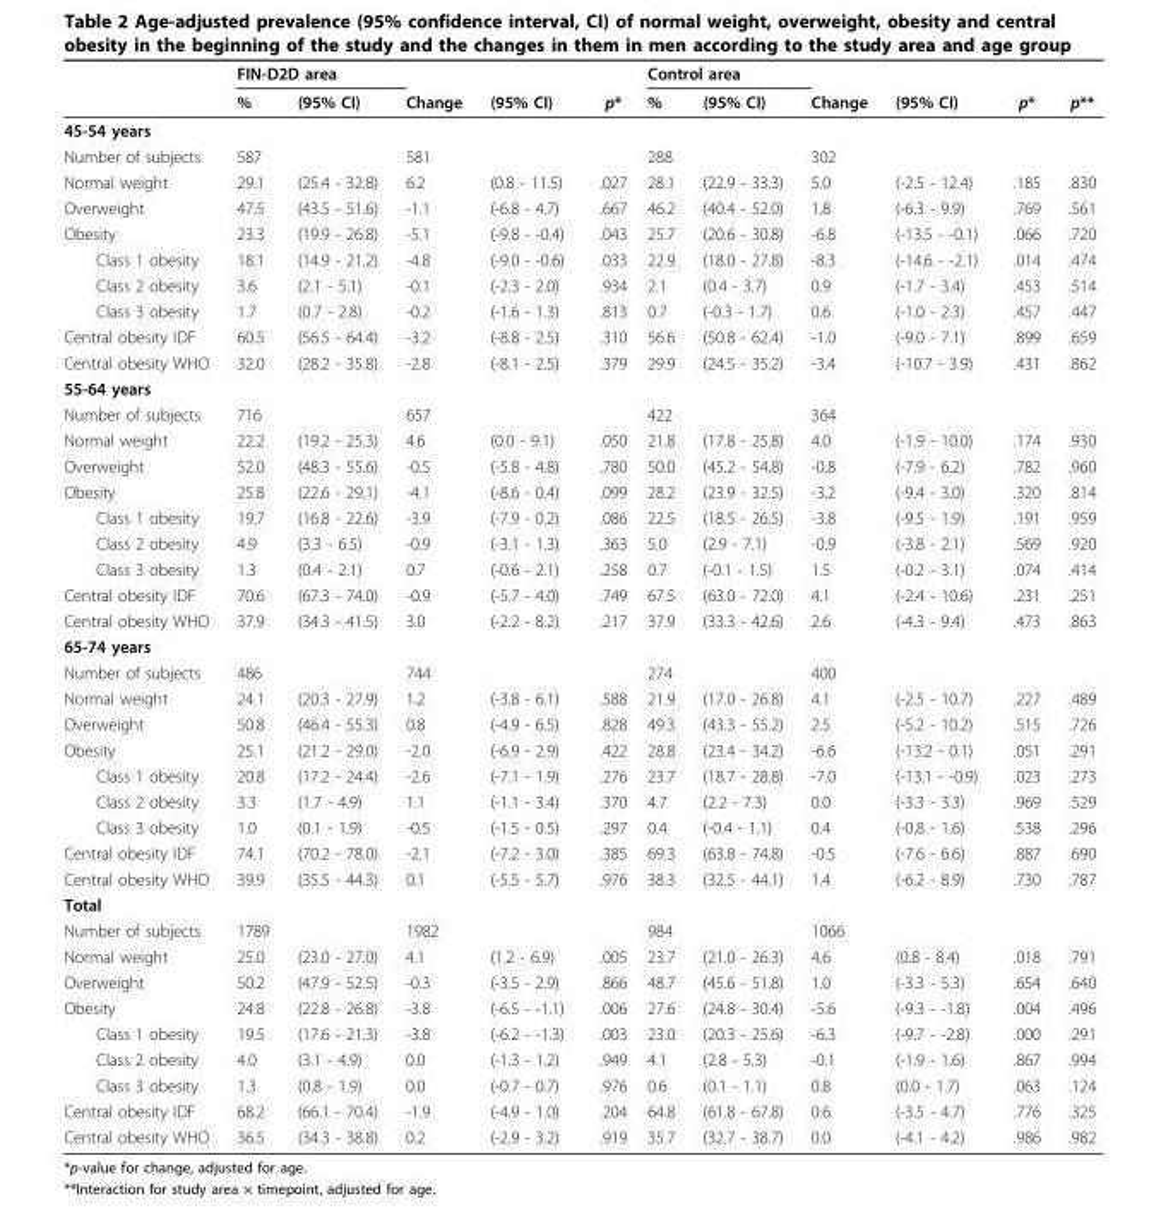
<table><thead><tr><td rowspan="2"></td><td colspan="2">FIN-D2D area</td><td rowspan="2">Change</td><td rowspan="2">(95% CI)</td><td rowspan="2">p*</td><td colspan="2">Control area</td><td rowspan="2">Change</td><td rowspan="2">(95% CI)</td><td rowspan="2">p*</td><td rowspan="2">p**</td></tr><tr><td>%</td><td>(95% CI)</td><td>%</td><td>(95% CI)</td></tr></thead><tbody><tr><td colspan="12">45-54 years</td></tr><tr><td>Number of subjects</td><td>587</td><td></td><td>581</td><td></td><td></td><td>288</td><td></td><td>302</td><td></td><td></td><td></td></tr><tr><td>Normal weight</td><td>29.1</td><td>(25.4 - 32.8)</td><td>6.2</td><td>(0.8 - 11.5)</td><td>.027</td><td>28.1</td><td>(22.9 - 33.3)</td><td>5.0</td><td>(-2.5 - 12.4)</td><td>.185</td><td>.830</td></tr><tr><td>Overweight</td><td>47.5</td><td>(43.5 - 51.6)</td><td>-1.1</td><td>(-6.8 - 4.7)</td><td>.667</td><td>46.2</td><td>(40.4 - 52.0)</td><td>1.8</td><td>(-6.3 - 9.9)</td><td>.769</td><td>.561</td></tr><tr><td>Obesity</td><td>23.3</td><td>(19.9 - 26.8)</td><td>-5.1</td><td>(-9.8 - -0.4)</td><td>.043</td><td>25.7</td><td>(20.6 - 30.8)</td><td>-6.8</td><td>(-13.5 - -0.1)</td><td>.066</td><td>.720</td></tr><tr><td>Class 1 obesity</td><td>18.1</td><td>(14.9 - 21.2)</td><td>-4.8</td><td>(-9.0 - -0.6)</td><td>.033</td><td>22.9</td><td>(18.0 - 27.8)</td><td>-8.3</td><td>(-14.6 - -2.1)</td><td>.014</td><td>.474</td></tr><tr><td>Class 2 obesity</td><td>3.6</td><td>(2.1 - 5.1)</td><td>-0.1</td><td>(-2.3 - 2.0)</td><td>.934</td><td>2.1</td><td>(0.4 - 3.7)</td><td>0.9</td><td>(-1.7 - 3.4)</td><td>.453</td><td>.514</td></tr><tr><td>Class 3 obesity</td><td>1.7</td><td>(0.7 - 2.8)</td><td>-0.2</td><td>(-1.6 - 1.3)</td><td>.813</td><td>0.7</td><td>(-0.3 - 1.7)</td><td>0.6</td><td>(-1.0 - 2.3)</td><td>.457</td><td>.447</td></tr><tr><td>Central obesity IDF</td><td>60.5</td><td>(56.5 - 64.4)</td><td>-3.2</td><td>(-8.8 - 2.5)</td><td>.310</td><td>56.6</td><td>(50.8 - 62.4)</td><td>-1.0</td><td>(-9.0 - 7.1)</td><td>.899</td><td>.659</td></tr><tr><td>Central obesity WHO</td><td>32.0</td><td>(28.2 - 35.8)</td><td>-2.8</td><td>(-8.1 - 2.5)</td><td>.379</td><td>29.9</td><td>(24.5 - 35.2)</td><td>-3.4</td><td>(-10.7 - 3.9)</td><td>.431</td><td>.862</td></tr><tr><td colspan="12">55-64 years</td></tr><tr><td>Number of subjects</td><td>716</td><td></td><td>657</td><td></td><td></td><td>422</td><td></td><td>364</td><td></td><td></td><td></td></tr><tr><td>Normal weight</td><td>22.2</td><td>(19.2 - 25.3)</td><td>4.6</td><td>(0.0 - 9.1)</td><td>.050</td><td>21.8</td><td>(17.8 - 25.8)</td><td>4.0</td><td>(-1.9 - 10.0)</td><td>.174</td><td>.930</td></tr><tr><td>Overweight</td><td>52.0</td><td>(48.3 - 55.6)</td><td>-0.5</td><td>(-5.8 - 4.8)</td><td>.780</td><td>50.0</td><td>(45.2 - 54.8)</td><td>-0.8</td><td>(-7.9 - 6.2)</td><td>.782</td><td>.960</td></tr><tr><td>Obesity</td><td>25.8</td><td>(22.6 - 29.1)</td><td>-4.1</td><td>(-8.6 - 0.4)</td><td>.099</td><td>28.2</td><td>(23.9 - 32.5)</td><td>-3.2</td><td>(-9.4 - 3.0)</td><td>.320</td><td>.814</td></tr><tr><td>Class 1 obesity</td><td>19.7</td><td>(16.8 - 22.6)</td><td>-3.9</td><td>(-7.9 - 0.2)</td><td>.086</td><td>22.5</td><td>(18.5 - 26.5)</td><td>-3.8</td><td>(-9.5 - 1.9)</td><td>.191</td><td>.959</td></tr><tr><td>Class 2 obesity</td><td>4.9</td><td>(3.3 - 6.5)</td><td>-0.9</td><td>(-3.1 - 1.3)</td><td>.363</td><td>5.0</td><td>(2.9 - 7.1)</td><td>-0.9</td><td>(-3.8 - 2.1)</td><td>.569</td><td>.920</td></tr><tr><td>Class 3 obesity</td><td>1.3</td><td>(0.4 - 2.1)</td><td>0.7</td><td>(-0.6 - 2.1)</td><td>.258</td><td>0.7</td><td>(-0.1 - 1.5)</td><td>1.5</td><td>(-0.2 - 3.1)</td><td>.074</td><td>.414</td></tr><tr><td>Central obesity IDF</td><td>70.6</td><td>(67.3 - 74.0)</td><td>-0.9</td><td>(-5.7 - 4.0)</td><td>.749</td><td>67.5</td><td>(63.0 - 72.0)</td><td>4.1</td><td>(-2.4 - 10.6)</td><td>.231</td><td>.251</td></tr><tr><td>Central obesity WHO</td><td>37.9</td><td>(34.3 - 41.5)</td><td>3.0</td><td>(-2.2 - 8.2)</td><td>.217</td><td>37.9</td><td>(33.3 - 42.6)</td><td>2.6</td><td>(-4.3 - 9.4)</td><td>.473</td><td>.863</td></tr><tr><td colspan="12">65-74 years</td></tr><tr><td>Number of subjects</td><td>486</td><td></td><td>744</td><td></td><td></td><td>274</td><td></td><td>400</td><td></td><td></td><td></td></tr><tr><td>Normal weight</td><td>24.1</td><td>(20.3 - 27.9)</td><td>1.2</td><td>(-3.8 - 6.1)</td><td>.588</td><td>21.9</td><td>(17.0 - 26.8)</td><td>4.1</td><td>(-2.5 - 10.7)</td><td>.227</td><td>.489</td></tr><tr><td>Overweight</td><td>50.8</td><td>(46.4 - 55.3)</td><td>0.8</td><td>(-4.9 - 6.5)</td><td>.828</td><td>49.3</td><td>(43.3 - 55.2)</td><td>2.5</td><td>(-5.2 - 10.2)</td><td>.515</td><td>.726</td></tr><tr><td>Obesity</td><td>25.1</td><td>(21.2 - 29.0)</td><td>-2.0</td><td>(-6.9 - 2.9)</td><td>.422</td><td>28.8</td><td>(23.4 - 34.2)</td><td>-6.6</td><td>(-13.2 - 0.1)</td><td>.051</td><td>.291</td></tr><tr><td>Class 1 obesity</td><td>20.8</td><td>(17.2 - 24.4)</td><td>-2.6</td><td>(-7.1 - 1.9)</td><td>.276</td><td>23.7</td><td>(18.7 - 28.8)</td><td>-7.0</td><td>(-13.1 - -0.9)</td><td>.023</td><td>.273</td></tr><tr><td>Class 2 obesity</td><td>3.3</td><td>(1.7 - 4.9)</td><td>1.1</td><td>(-1.1 - 3.4)</td><td>.370</td><td>4.7</td><td>(2.2 - 7.3)</td><td>0.0</td><td>(-3.3 - 3.3)</td><td>.969</td><td>.529</td></tr><tr><td>Class 3 obesity</td><td>1.0</td><td>(0.1 - 1.9)</td><td>-0.5</td><td>(-1.5 - 0.5)</td><td>.297</td><td>0.4</td><td>(-0.4 - 1.1)</td><td>0.4</td><td>(-0.8 - 1.6)</td><td>.538</td><td>.296</td></tr><tr><td>Central obesity IDF</td><td>74.1</td><td>(70.2 - 78.0)</td><td>-2.1</td><td>(-7.2 - 3.0)</td><td>.385</td><td>69.3</td><td>(63.8 - 74.8)</td><td>-0.5</td><td>(-7.6 - 6.6)</td><td>.887</td><td>.690</td></tr><tr><td>Central obesity WHO</td><td>39.9</td><td>(35.5 - 44.3)</td><td>0.1</td><td>(-5.5 - 5.7)</td><td>.976</td><td>38.3</td><td>(32.5 - 44.1)</td><td>1.4</td><td>(-6.2 - 8.9)</td><td>.730</td><td>.787</td></tr><tr><td colspan="12">Total</td></tr><tr><td>Number of subjects</td><td>1789</td><td></td><td>1982</td><td></td><td></td><td>984</td><td></td><td>1066</td><td></td><td></td><td></td></tr><tr><td>Normal weight</td><td>25.0</td><td>(23.0 - 27.0)</td><td>4.1</td><td>(1.2 - 6.9)</td><td>.005</td><td>23.7</td><td>(21.0 - 26.3)</td><td>4.6</td><td>(0.8 - 8.4)</td><td>.018</td><td>.791</td></tr><tr><td>Overweight</td><td>50.2</td><td>(47.9 - 52.5)</td><td>-0.3</td><td>(-3.5 - 2.9)</td><td>.866</td><td>48.7</td><td>(45.6 - 51.8)</td><td>1.0</td><td>(-3.3 - 5.3)</td><td>.654</td><td>.640</td></tr><tr><td>Obesity</td><td>24.8</td><td>(22.8 - 26.8)</td><td>-3.8</td><td>(-6.5 - -1.1)</td><td>.006</td><td>27.6</td><td>(24.8 - 30.4)</td><td>-5.6</td><td>(-9.3 - -1.8)</td><td>.004</td><td>.496</td></tr><tr><td>Class 1 obesity</td><td>19.5</td><td>(17.6 - 21.3)</td><td>-3.8</td><td>(-6.2 - -1.3)</td><td>.003</td><td>23.0</td><td>(20.3 - 25.6)</td><td>-6.3</td><td>(-9.7 - -2.8)</td><td>.000</td><td>.291</td></tr><tr><td>Class 2 obesity</td><td>4.0</td><td>(3.1 - 4.9)</td><td>0.0</td><td>(-1.3 - 1.2)</td><td>.949</td><td>4.1</td><td>(2.8 - 5.3)</td><td>-0.1</td><td>(-1.9 - 1.6)</td><td>.867</td><td>.994</td></tr><tr><td>Class 3 obesity</td><td>1.3</td><td>(0.8 - 1.9)</td><td>0.0</td><td>(-0.7 - 0.7)</td><td>.976</td><td>0.6</td><td>(0.1 - 1.1)</td><td>0.8</td><td>(0.0 - 1.7)</td><td>.063</td><td>.124</td></tr><tr><td>Central obesity IDF</td><td>68.2</td><td>(66.1 - 70.4)</td><td>-1.9</td><td>(-4.9 - 1.0)</td><td>.204</td><td>64.8</td><td>(61.8 - 67.8)</td><td>0.6</td><td>(-3.5 - 4.7)</td><td>.776</td><td>.325</td></tr><tr><td>Central obesity WHO</td><td>36.5</td><td>(34.3 - 38.8)</td><td>0.2</td><td>(-2.9 - 3.2)</td><td>.919</td><td>35.7</td><td>(32.7 - 38.7)</td><td>0.0</td><td>(-4.1 - 4.2)</td><td>.986</td><td>.982</td></tr></tbody></table>